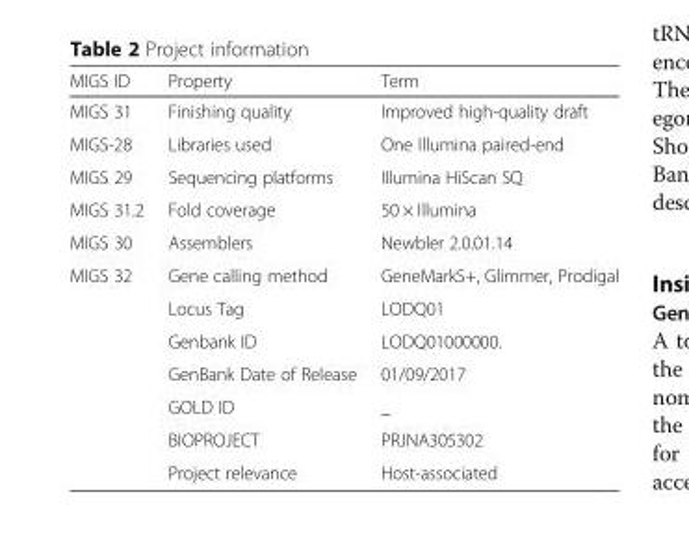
<table><thead><tr><td>MIGS ID</td><td>Property</td><td>Term</td></tr></thead><tbody><tr><td>MIGS 31</td><td>Finishing quality</td><td>Improved high-quality draft</td></tr><tr><td>MIGS-28</td><td>Libraries used</td><td>One Illumina paired-end</td></tr><tr><td>MIGS 29</td><td>Sequencing platforms</td><td>Illumina HiScan SQ</td></tr><tr><td>MIGS 31.2</td><td>Fold coverage</td><td>50 × Illumina</td></tr><tr><td>MIGS 30</td><td>Assemblers</td><td>Newbler 2.0.01.14</td></tr><tr><td rowspan="7">MIGS 32</td><td>Gene calling method</td><td>GeneMarkS+, Glimmer, Prodigal</td></tr><tr><td>Locus Tag</td><td>LODQ01</td></tr><tr><td>Genbank ID</td><td>LODQ01000000.</td></tr><tr><td>GenBank Date of Release</td><td>01/09/2017</td></tr><tr><td>GOLD ID</td><td>_</td></tr><tr><td>BIOPROJECT</td><td>PRJNA305302</td></tr><tr><td>Project relevance</td><td>Host-associated</td></tr></tbody></table>